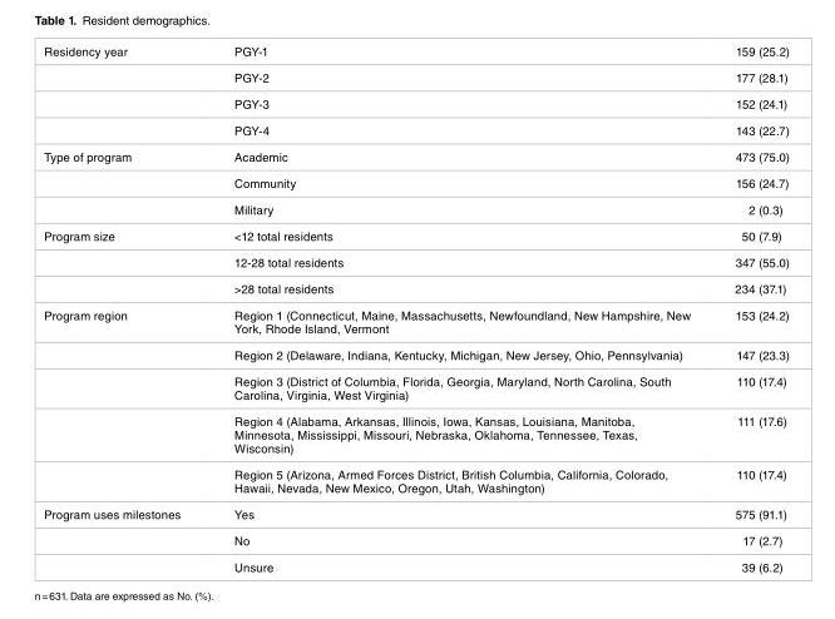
<table><tbody><tr><td rowspan="4">Residency year</td><td>PGY-1</td><td>159 (25.2)</td></tr><tr><td>PGY-2</td><td>177 (28.1)</td></tr><tr><td>PGY-3</td><td>152 (24.1)</td></tr><tr><td>PGY-4</td><td>143 (22.7)</td></tr><tr><td rowspan="3">Type of program</td><td>Academic</td><td>473 (75.0)</td></tr><tr><td>Community</td><td>156 (24.7)</td></tr><tr><td>Military</td><td>2 (0.3)</td></tr><tr><td rowspan="3">Program size</td><td>&lt;12 total residents</td><td>50 (7.9)</td></tr><tr><td>12-28 total residents</td><td>347 (55.0)</td></tr><tr><td>&gt;28 total residents</td><td>234 (37.1)</td></tr><tr><td rowspan="5">Program region</td><td>Region 1 (Connecticut, Maine, Massachusetts, Newfoundland, New Hampshire, New York, Rhode Island, Vermont</td><td>153 (24.2)</td></tr><tr><td>Region 2 (Delaware, Indiana, Kentucky, Michigan, New Jersey, Ohio, Pennsylvania)</td><td>147 (23.3)</td></tr><tr><td>Region 3 (District of Columbia, Florida, Georgia, Maryland, North Carolina, South Carolina, Virginia, West Virginia)</td><td>110 (17.4)</td></tr><tr><td>Region 4 (Alabama, Arkansas, Illinois, Iowa, Kansas, Louisiana, Manitoba, Minnesota, Mississippi, Missouri, Nebraska, Oklahoma, Tennessee, Texas, Wisconsin)</td><td>111 (17.6)</td></tr><tr><td>Region 5 (Arizona, Armed Forces District, British Columbia, California, Colorado, Hawaii, Nevada, New Mexico, Oregon, Utah, Washington)</td><td>110 (17.4)</td></tr><tr><td rowspan="3">Program uses milestones</td><td>Yes</td><td>575 (91.1)</td></tr><tr><td>No</td><td>17 (2.7)</td></tr><tr><td>Unsure</td><td>39 (6.2)</td></tr></tbody></table>